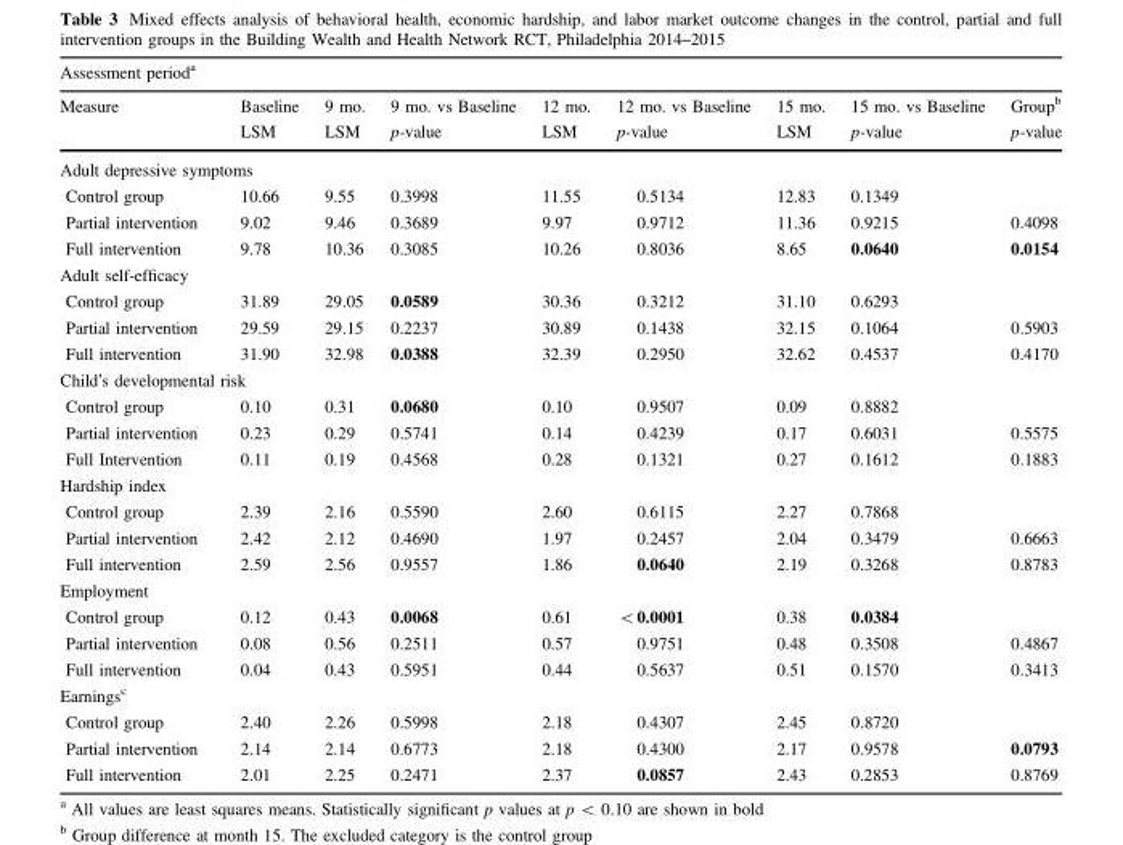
<table><thead><tr><td colspan="9">Assessment period<sup>a</sup></td></tr><tr><td rowspan="2">Measure</td><td rowspan="2">Baseline LSM</td><td rowspan="2">9 mo. LSM</td><td rowspan="2">9 mo. vs Baseline p-value</td><td rowspan="2">12 mo. LSM</td><td rowspan="2">12 mo. vs Baseline p-value</td><td rowspan="2">15 mo. LSM</td><td rowspan="2">15 mo. vs Baseline p-value</td><td rowspan="2">Groupb p-value</td></tr><tr></tr></thead><tbody><tr><td colspan="9">Adult depressive symptoms</td></tr><tr><td>Control group</td><td>10.66</td><td>9.55</td><td>0.3998</td><td>11.55</td><td>0.5134</td><td>12.83</td><td>0.1349</td><td></td></tr><tr><td>Partial intervention</td><td>9.02</td><td>9.46</td><td>0.3689</td><td>9.97</td><td>0.9712</td><td>11.36</td><td>0.9215</td><td>0.4098</td></tr><tr><td>Full intervention</td><td>9.78</td><td>10.36</td><td>0.3085</td><td>10.26</td><td>0.8036</td><td>8.65</td><td>0.0640</td><td>0.0154</td></tr><tr><td colspan="9">Adult self-efficacy</td></tr><tr><td>Control group</td><td>31.89</td><td>29.05</td><td>0.0589</td><td>30.36</td><td>0.3212</td><td>31.10</td><td>0.6293</td><td></td></tr><tr><td>Partial intervention</td><td>29.59</td><td>29.15</td><td>0.2237</td><td>30.89</td><td>0.1438</td><td>32.15</td><td>0.1064</td><td>0.5903</td></tr><tr><td>Full intervention</td><td>31.90</td><td>32.98</td><td>0.0388</td><td>32.39</td><td>0.2950</td><td>32.62</td><td>0.4537</td><td>0.4170</td></tr><tr><td colspan="9">Child’s developmental risk</td></tr><tr><td>Control group</td><td>0.10</td><td>0.31</td><td>0.0680</td><td>0.10</td><td>0.9507</td><td>0.09</td><td>0.8882</td><td></td></tr><tr><td>Partial intervention</td><td>0.23</td><td>0.29</td><td>0.5741</td><td>0.14</td><td>0.4239</td><td>0.17</td><td>0.6031</td><td>0.5575</td></tr><tr><td>Full Intervention</td><td>0.11</td><td>0.19</td><td>0.4568</td><td>0.28</td><td>0.1321</td><td>0.27</td><td>0.1612</td><td>0.1883</td></tr><tr><td colspan="9">Hardship index</td></tr><tr><td>Control group</td><td>2.39</td><td>2.16</td><td>0.5590</td><td>2.60</td><td>0.6115</td><td>2.27</td><td>0.7868</td><td></td></tr><tr><td>Partial intervention</td><td>2.42</td><td>2.12</td><td>0.4690</td><td>1.97</td><td>0.2457</td><td>2.04</td><td>0.3479</td><td>0.6663</td></tr><tr><td>Full intervention</td><td>2.59</td><td>2.56</td><td>0.9557</td><td>1.86</td><td>0.0640</td><td>2.19</td><td>0.3268</td><td>0.8783</td></tr><tr><td colspan="9">Employment</td></tr><tr><td>Control group</td><td>0.12</td><td>0.43</td><td>0.0068</td><td>0.61</td><td>&lt;0.0001</td><td>0.38</td><td>0.0384</td><td></td></tr><tr><td>Partial intervention</td><td>0.08</td><td>0.56</td><td>0.2511</td><td>0.57</td><td>0.9751</td><td>0.48</td><td>0.3508</td><td>0.4867</td></tr><tr><td>Full intervention</td><td>0.04</td><td>0.43</td><td>0.5951</td><td>0.44</td><td>0.5637</td><td>0.51</td><td>0.1570</td><td>0.3413</td></tr><tr><td colspan="9">Earnings<sup>c</sup></td></tr><tr><td>Control group</td><td>2.40</td><td>2.26</td><td>0.5998</td><td>2.18</td><td>0.4307</td><td>2.45</td><td>0.8720</td><td></td></tr><tr><td>Partial intervention</td><td>2.14</td><td>2.14</td><td>0.6773</td><td>2.18</td><td>0.4300</td><td>2.17</td><td>0.9578</td><td>0.0793</td></tr><tr><td>Full intervention</td><td>2.01</td><td>2.25</td><td>0.2471</td><td>2.37</td><td>0.0857</td><td>2.43</td><td>0.2853</td><td>0.8769</td></tr></tbody></table>